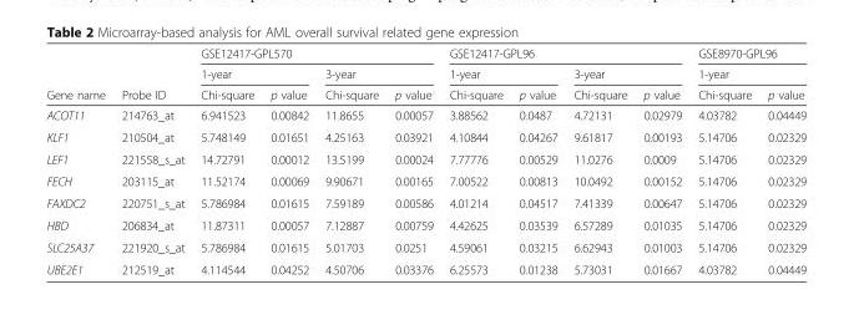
<table><thead><tr><td rowspan="3">Gene name</td><td rowspan="3">Probe ID</td><td colspan="4">GSE12417-GPL570</td><td colspan="4">GSE12417-GPL96</td><td rowspan="2" colspan="2">GSE8970-GPL96 1-year</td></tr><tr><td colspan="2">1-year</td><td colspan="2">3-year</td><td colspan="2">1-year</td><td colspan="2">3-year</td></tr><tr><td>Chi-square</td><td>p value</td><td>Chi-square</td><td>p value</td><td>Chi-square</td><td>p value</td><td>Chi-square</td><td>p value</td><td>Chi-square</td><td>p value</td></tr></thead><tbody><tr><td>ACOT11</td><td>214763_at</td><td>6.941523</td><td>0.00842</td><td>11.8655</td><td>0.00057</td><td>3.88562</td><td>0.0487</td><td>4.72131</td><td>0.02979</td><td>4.03782</td><td>0.04449</td></tr><tr><td>KLF1</td><td>210504_at</td><td>5.748149</td><td>0.01651</td><td>4.25163</td><td>0.03921</td><td>4.10844</td><td>0.04267</td><td>9.61817</td><td>0.00193</td><td>5.14706</td><td>0.02329</td></tr><tr><td>LEF1</td><td>221558_s_at</td><td>14.72791</td><td>0.00012</td><td>13.5199</td><td>0.00024</td><td>7.77776</td><td>0.00529</td><td>11.0276</td><td>0.0009</td><td>5.14706</td><td>0.02329</td></tr><tr><td>FECH</td><td>203115_at</td><td>11.52174</td><td>0.00069</td><td>9.90671</td><td>0.00165</td><td>7.00522</td><td>0.00813</td><td>10.0492</td><td>0.00152</td><td>5.14706</td><td>0.02329</td></tr><tr><td>FAXDC2</td><td>220751_s_at</td><td>5.786984</td><td>0.01615</td><td>7.59189</td><td>0.00586</td><td>4.01214</td><td>0.04517</td><td>7.41339</td><td>0.00647</td><td>5.14706</td><td>0.02329</td></tr><tr><td>HBD</td><td>206834_at</td><td>11.87311</td><td>0.00057</td><td>7.12887</td><td>0.00759</td><td>4.42625</td><td>0.03539</td><td>6.57289</td><td>0.01035</td><td>5.14706</td><td>0.02329</td></tr><tr><td>SLC25A37</td><td>221920_s_at</td><td>5.786984</td><td>0.01615</td><td>5.01703</td><td>0.0251</td><td>4.59061</td><td>0.03215</td><td>6.62943</td><td>0.01003</td><td>5.14706</td><td>0.02329</td></tr><tr><td>UBE2E1</td><td>212519_at</td><td>4.114544</td><td>0.04252</td><td>4.50706</td><td>0.03376</td><td>6.25573</td><td>0.01238</td><td>5.73031</td><td>0.01667</td><td>4.03782</td><td>0.04449</td></tr></tbody></table>